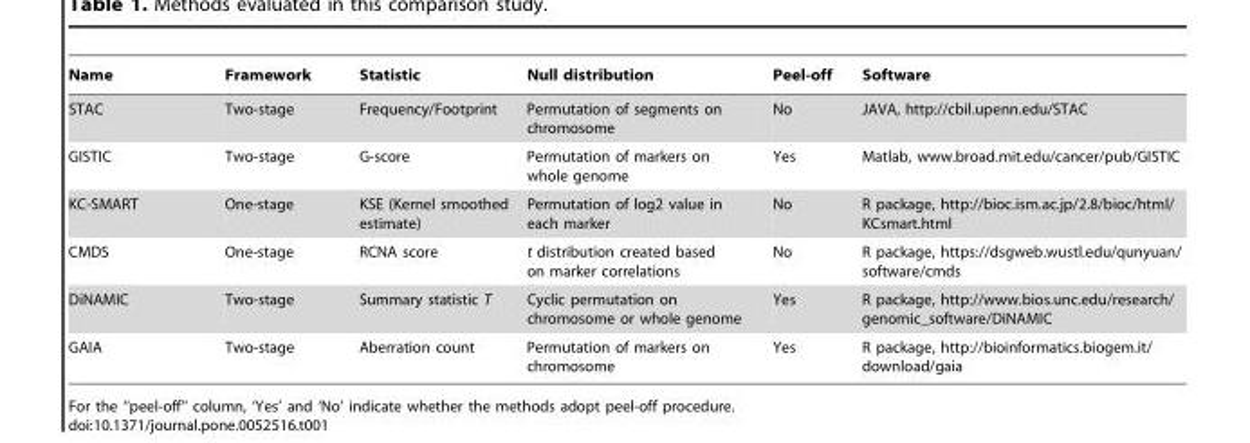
<table><thead><tr><td>Name</td><td>Framework</td><td>Statistic</td><td>Null distribution</td><td>Peel-off</td><td>Software</td></tr></thead><tbody><tr><td>STAC</td><td>Two-stage</td><td>Frequency/Footprint</td><td>Permutation of segments on chromosome</td><td>No</td><td>JAVA, http://cbil.upenn.edu/STAC</td></tr><tr><td>GISTIC</td><td>Two-stage</td><td>G-score</td><td>Permutation of markers on whole genome</td><td>Yes</td><td>Matlab, www.broad.mit.edu/cancer/pub/GISTIC</td></tr><tr><td>KC-SMART</td><td>One-stage</td><td>KSE (Kernel smoothed estimate)</td><td>Permutation of log2 value in each marker</td><td>No</td><td>R package, http://bioc.ism.ac.jp/2.8/bioc/html/ KCsmart.html</td></tr><tr><td>CMDS</td><td>One-stage</td><td>RCNA score</td><td>t distribution created based on marker correlations</td><td>No</td><td>R package, https://dsgweb.wustl.edu/qunyuan/ software/cmds</td></tr><tr><td>DiNAMIC</td><td>Two-stage</td><td>Summary statistic T</td><td>Cyclic permutation on chromosome or whole genome</td><td>Yes</td><td>R package, http://www.bios.unc.edu/research/ genomic_software/DiNAMIC</td></tr><tr><td>GAIA</td><td>Two-stage</td><td>Aberration count</td><td>Permutation of markers on chromosome</td><td>Yes</td><td>R package, http://bioinformatics.biogem.it/ download/gaia</td></tr></tbody></table>